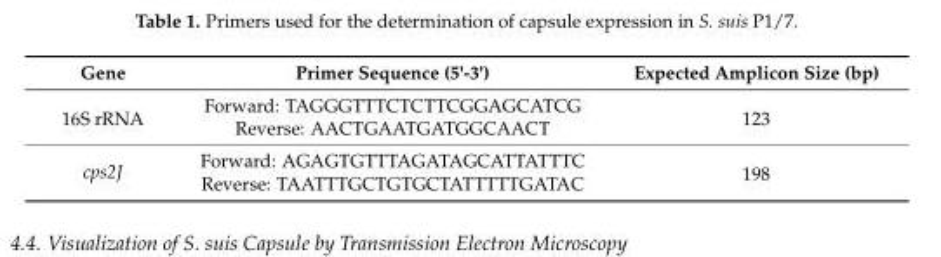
<table><thead><tr><td>Gene</td><td>Primer Sequence (5&#x27;-3&#x27;)</td><td>Expected Amplicon Size (bp)</td></tr></thead><tbody><tr><td rowspan="2">16S rRNA</td><td>Forward: TAGGGTTTCTCTTCGGAGCATCG</td><td rowspan="2">123</td></tr><tr><td>Reverse: AACTGAATGATGGCAACT</td></tr><tr><td rowspan="2">cps2J</td><td>Forward: AGAGTGTTTAGATAGCATTATTTC</td><td rowspan="2">198</td></tr><tr><td>Reverse: TAATTTGCTGTGCTATTTTTGATAC</td></tr></tbody></table>